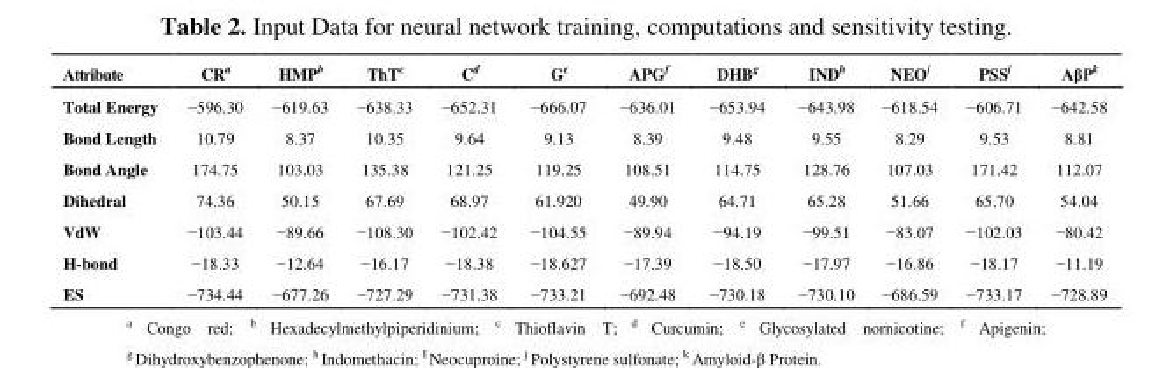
<table><thead><tr><td>Attribute</td><td>CR<sup>a</sup></td><td>HMP<sup>b</sup></td><td>ThT<sup>c</sup></td><td>C<sup>d</sup></td><td>G<sup>e</sup></td><td>APG<sup>f</sup></td><td>DHB<sup>g</sup></td><td>IND<sup>h</sup></td><td>NEO<sup>i</sup></td><td>PSS<sup>j</sup></td><td>AβP<sup>k</sup></td></tr></thead><tbody><tr><td>Total Energy</td><td>−596.30</td><td>−619.63</td><td>−638.33</td><td>−652.31</td><td>−666.07</td><td>−636.01</td><td>−653.94</td><td>−643.98</td><td>−618.54</td><td>−606.71</td><td>−642.58</td></tr><tr><td>Bond Length</td><td>10.79</td><td>8.37</td><td>10.35</td><td>9.64</td><td>9.13</td><td>8.39</td><td>9.48</td><td>9.55</td><td>8.29</td><td>9.53</td><td>8.81</td></tr><tr><td>Bond Angle</td><td>174.75</td><td>103.03</td><td>135.38</td><td>121.25</td><td>119.25</td><td>108.51</td><td>114.75</td><td>128.76</td><td>107.03</td><td>171.42</td><td>112.07</td></tr><tr><td>Dihedral</td><td>74.36</td><td>50.15</td><td>67.69</td><td>68.97</td><td>61.920</td><td>49.90</td><td>64.71</td><td>65.28</td><td>51.66</td><td>65.70</td><td>54.04</td></tr><tr><td>VdW</td><td>−103.44</td><td>−89.66</td><td>−108.30</td><td>−102.42</td><td>−104.55</td><td>−89.94</td><td>−94.19</td><td>−99.51</td><td>−83.07</td><td>−102.03</td><td>−80.42</td></tr><tr><td>H-bond</td><td>−18.33</td><td>−12.64</td><td>−16.17</td><td>−18.38</td><td>−18.627</td><td>−17.39</td><td>−18.50</td><td>−17.97</td><td>−16.86</td><td>−18.17</td><td>−11.19</td></tr><tr><td>ES</td><td>−734.44</td><td>−677.26</td><td>−727.29</td><td>−731.38</td><td>−733.21</td><td>−692.48</td><td>−730.18</td><td>−730.10</td><td>−686.59</td><td>−733.17</td><td>−728.89</td></tr></tbody></table>